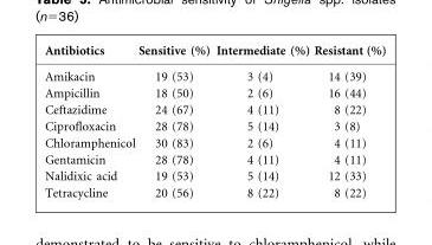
<table><thead><tr><td>Antibiotics</td><td>Sensitive (%)</td><td>Intermediate (%)</td><td>Resistant (%)</td></tr></thead><tbody><tr><td>Amikacin</td><td>19 (53)</td><td>3 (4)</td><td>14 (39)</td></tr><tr><td>Ampicillin</td><td>18 (50)</td><td>2 (6)</td><td>16 (44)</td></tr><tr><td>Ceftazidime</td><td>24 (67)</td><td>4 (11)</td><td>8 (22)</td></tr><tr><td>Ciprofloxacin</td><td>28 (78)</td><td>5 (14)</td><td>3 (8)</td></tr><tr><td>Chloramphenicol</td><td>30 (83)</td><td>2 (6)</td><td>4 (11)</td></tr><tr><td>Gentamicin</td><td>28 (78)</td><td>4 (11)</td><td>4 (11)</td></tr><tr><td>Nalidixic acid</td><td>19 (53)</td><td>5 (14)</td><td>12 (33)</td></tr><tr><td>Tetracycline</td><td>20 (56)</td><td>8 (22)</td><td>8 (22)</td></tr></tbody></table>